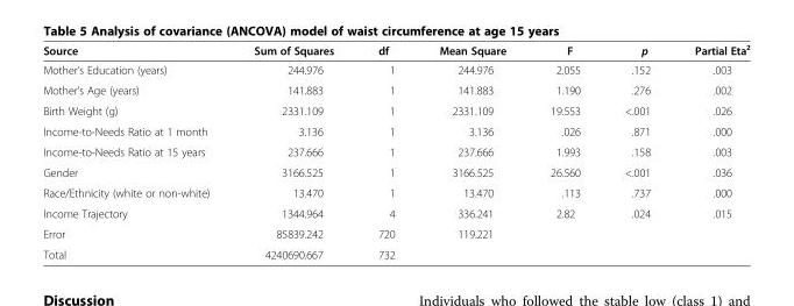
<table><thead><tr><td>Source</td><td>Sum of Squares</td><td>df</td><td>Mean Square</td><td>F</td><td>p</td><td>Partial Eta²</td></tr></thead><tbody><tr><td>Mother’s Education (years)</td><td>244.976</td><td>1</td><td>244.976</td><td>2.055</td><td>.152</td><td>.003</td></tr><tr><td>Mother’s Age (years)</td><td>141.883</td><td>1</td><td>141.883</td><td>1.190</td><td>.276</td><td>.002</td></tr><tr><td>Birth Weight (g)</td><td>2331.109</td><td>1</td><td>2331.109</td><td>19.553</td><td>&lt;.001</td><td>.026</td></tr><tr><td>Income-to-Needs Ratio at 1 month</td><td>3.136</td><td>1</td><td>3.136</td><td>.026</td><td>.871</td><td>.000</td></tr><tr><td>Income-to-Needs Ratio at 15 years</td><td>237.666</td><td>1</td><td>237.666</td><td>1.993</td><td>.158</td><td>.003</td></tr><tr><td>Gender</td><td>3166.525</td><td>1</td><td>3166.525</td><td>26.560</td><td>&lt;.001</td><td>.036</td></tr><tr><td>Race/Ethnicity (white or non-white)</td><td>13.470</td><td>1</td><td>13.470</td><td>.113</td><td>.737</td><td>.000</td></tr><tr><td>Income Trajectory</td><td>1344.964</td><td>4</td><td>336.241</td><td>2.82</td><td>.024</td><td>.015</td></tr><tr><td>Error</td><td>85839.242</td><td>720</td><td>119.221</td><td></td><td></td><td></td></tr><tr><td>Total</td><td>4240690.667</td><td>732</td><td></td><td></td><td></td><td></td></tr></tbody></table>